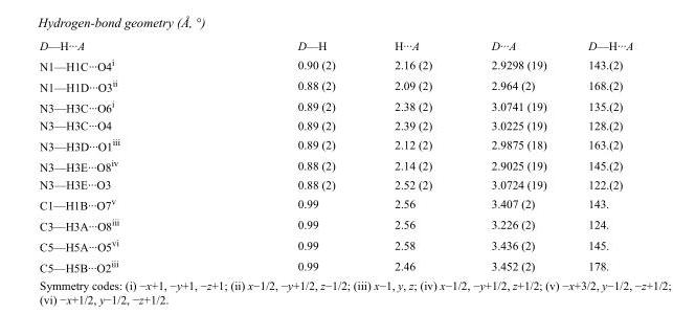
<table><tbody><tr><td>D—H···A</td><td>D—H</td><td>H···A</td><td>D···A</td><td>D—H···A</td></tr><tr><td>N1—H1C···O4<sup>i</sup></td><td>0.90 (2)</td><td>2.16 (2)</td><td>2.9298 (19)</td><td>143.(2)</td></tr><tr><td>N1—H1D···O3<sup>ii</sup></td><td>0.88 (2)</td><td>2.09 (2)</td><td>2.964 (2)</td><td>168.(2)</td></tr><tr><td>N3—H3C···O6<sup>i</sup></td><td>0.89 (2)</td><td>2.38 (2)</td><td>3.0741 (19)</td><td>135.(2)</td></tr><tr><td>N3—H3C···O4</td><td>0.89 (2)</td><td>2.39 (2)</td><td>3.0225 (19)</td><td>128.(2)</td></tr><tr><td>N3—H3D···O1<sup>iii</sup></td><td>0.89 (2)</td><td>2.12 (2)</td><td>2.9875 (18)</td><td>163.(2)</td></tr><tr><td>N3—H3E···O8<sup>iv</sup></td><td>0.88 (2)</td><td>2.14 (2)</td><td>2.9025 (19)</td><td>145.(2)</td></tr><tr><td>N3—H3E···O3</td><td>0.88 (2)</td><td>2.52 (2)</td><td>3.0724 (19)</td><td>122.(2)</td></tr><tr><td>C1—H1B···O7<sup>v</sup></td><td>0.99</td><td>2.56</td><td>3.407 (2)</td><td>143.</td></tr><tr><td>C3—H3A···O8<sup>iii</sup></td><td>0.99</td><td>2.56</td><td>3.226 (2)</td><td>124.</td></tr><tr><td>C5—H5A···O5<sup>vi</sup></td><td>0.99</td><td>2.58</td><td>3.436 (2)</td><td>145.</td></tr><tr><td>C5—H5B···O2<sup>iii</sup></td><td>0.99</td><td>2.46</td><td>3.452 (2)</td><td>178.</td></tr></tbody></table>